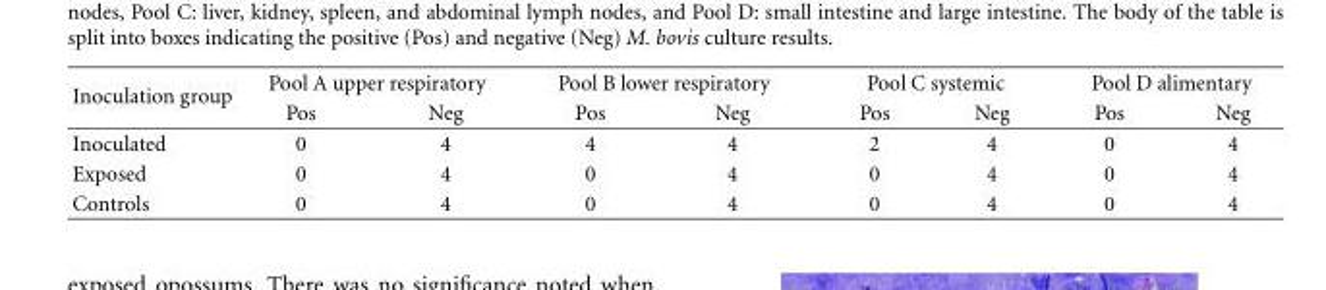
<table><thead><tr><td rowspan="2">Inoculation group</td><td colspan="2">Pool A upper respiratory</td><td colspan="2">Pool B lower respiratory</td><td colspan="2">Pool C systemic</td><td colspan="2">Pool D alimentary</td></tr><tr><td>Pos</td><td>Neg</td><td>Pos</td><td>Neg</td><td>Pos</td><td>Neg</td><td>Pos</td><td>Neg</td></tr></thead><tbody><tr><td>Inoculated</td><td>0</td><td>4</td><td>4</td><td>4</td><td>2</td><td>4</td><td>0</td><td>4</td></tr><tr><td>Exposed</td><td>0</td><td>4</td><td>0</td><td>4</td><td>0</td><td>4</td><td>0</td><td>4</td></tr><tr><td>Controls</td><td>0</td><td>4</td><td>0</td><td>4</td><td>0</td><td>4</td><td>0</td><td>4</td></tr></tbody></table>